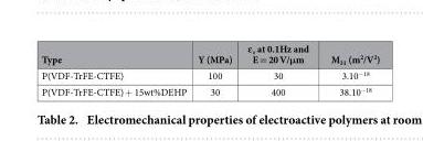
<table><thead><tr><td>Type</td><td>Y (MPa)</td><td>ɛ<sub>r</sub> at 0.1Hz and E = 20 V/μm</td><td>M<sub>31</sub> (m<sup>2</sup>/V<sup>2</sup>)</td></tr></thead><tbody><tr><td>P(VDF-TrFE-CTFE)</td><td>100</td><td>30</td><td>3.10<sup>−18</sup></td></tr><tr><td>P(VDF-TrFE-CTFE) + 15wt%DEHP</td><td>30</td><td>400</td><td>38.10<sup>−18</sup></td></tr></tbody></table>